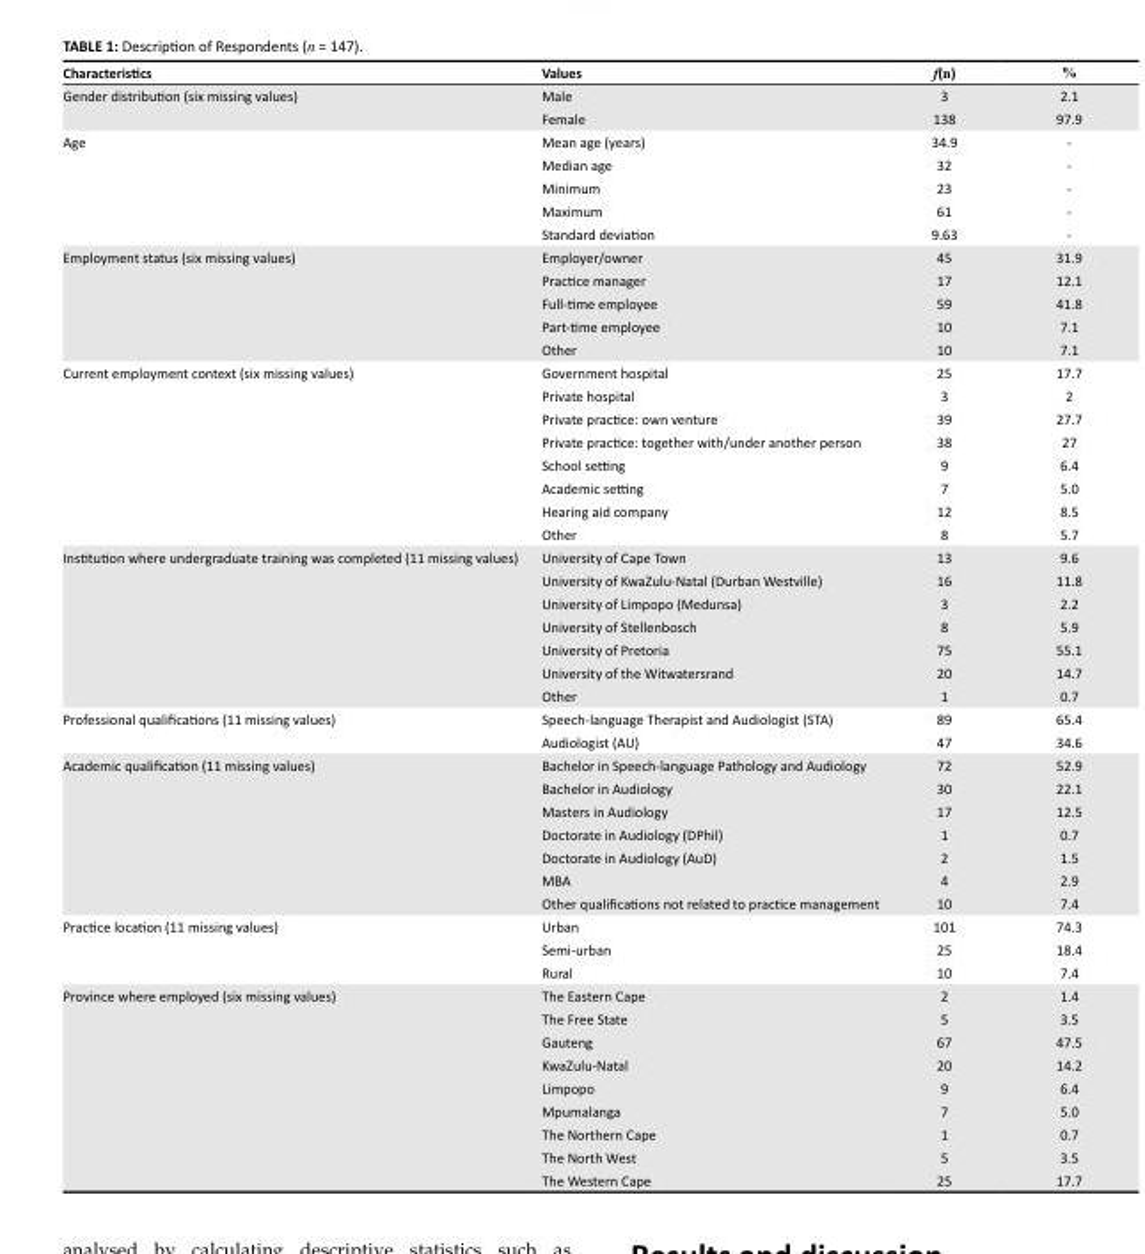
<table><thead><tr><td>Characteristics</td><td>Values</td><td>f(n)</td><td>%</td></tr></thead><tbody><tr><td rowspan="2">Gender distribution (six missing values)</td><td>Male</td><td>3</td><td>2.1</td></tr><tr><td>Female</td><td>138</td><td>97.9</td></tr><tr><td rowspan="5">Age</td><td>Mean age (years)</td><td>34.9</td><td>-</td></tr><tr><td>Median age</td><td>32</td><td>-</td></tr><tr><td>Minimum</td><td>23</td><td>-</td></tr><tr><td>Maximum</td><td>61</td><td>-</td></tr><tr><td>Standard deviation</td><td>9.63</td><td>-</td></tr><tr><td rowspan="5">Employment status (six missing values)</td><td>Employer/owner</td><td>45</td><td>31.9</td></tr><tr><td>Practice manager</td><td>17</td><td>12.1</td></tr><tr><td>Full-time employee</td><td>59</td><td>41.8</td></tr><tr><td>Part-time employee</td><td>10</td><td>7.1</td></tr><tr><td>Other</td><td>10</td><td>7.1</td></tr><tr><td rowspan="8">Current employment context (six missing values)</td><td>Government hospital</td><td>25</td><td>17.7</td></tr><tr><td>Private hospital</td><td>3</td><td>2</td></tr><tr><td>Private practice: own venture</td><td>39</td><td>27.7</td></tr><tr><td>Private practice: together with/under another person</td><td>38</td><td>27</td></tr><tr><td>School setting</td><td>9</td><td>6.4</td></tr><tr><td>Academic setting</td><td>7</td><td>5.0</td></tr><tr><td>Hearing aid company</td><td>12</td><td>8.5</td></tr><tr><td>Other</td><td>8</td><td>5.7</td></tr><tr><td rowspan="7">Institution where undergraduate training was completed (11 missing values)</td><td>University of Cape Town</td><td>13</td><td>9.6</td></tr><tr><td>University of KwaZulu-Natal (Durban Westville)</td><td>16</td><td>11.8</td></tr><tr><td>University of Limpopo (Medunsa)</td><td>3</td><td>2.2</td></tr><tr><td>University of Stellenbosch</td><td>8</td><td>5.9</td></tr><tr><td>University of Pretoria</td><td>75</td><td>55.1</td></tr><tr><td>University of the Witwatersrand</td><td>20</td><td>14.7</td></tr><tr><td>Other</td><td>1</td><td>0.7</td></tr><tr><td rowspan="2">Professional qualifications (11 missing values)</td><td>Speech-language Therapist and Audiologist (STA)</td><td>89</td><td>65.4</td></tr><tr><td>Audiologist (AU)</td><td>47</td><td>34.6</td></tr><tr><td rowspan="7">Academic qualification (11 missing values)</td><td>Bachelor in Speech-language Pathology and Audiology</td><td>72</td><td>52.9</td></tr><tr><td>Bachelor in Audiology</td><td>30</td><td>22.1</td></tr><tr><td>Masters in Audiology</td><td>17</td><td>12.5</td></tr><tr><td>Doctorate in Audiology (DPhil)</td><td>1</td><td>0.7</td></tr><tr><td>Doctorate in Audiology (AuD)</td><td>2</td><td>1.5</td></tr><tr><td>MBA</td><td>4</td><td>2.9</td></tr><tr><td>Other qualifications not related to practice management</td><td>10</td><td>7.4</td></tr><tr><td rowspan="3">Practice location (11 missing values)</td><td>Urban</td><td>101</td><td>74.3</td></tr><tr><td>Semi-urban</td><td>25</td><td>18.4</td></tr><tr><td>Rural</td><td>10</td><td>7.4</td></tr><tr><td rowspan="9">Province where employed (six missing values)</td><td>The Eastern Cape</td><td>2</td><td>1.4</td></tr><tr><td>The Free State</td><td>5</td><td>3.5</td></tr><tr><td>Gauteng</td><td>67</td><td>47.5</td></tr><tr><td>KwaZulu-Natal</td><td>20</td><td>14.2</td></tr><tr><td>Limpopo</td><td>9</td><td>6.4</td></tr><tr><td>Mpumalanga</td><td>7</td><td>5.0</td></tr><tr><td>The Northern Cape</td><td>1</td><td>0.7</td></tr><tr><td>The North West</td><td>5</td><td>3.5</td></tr><tr><td>The Western Cape</td><td>25</td><td>17.7</td></tr></tbody></table>